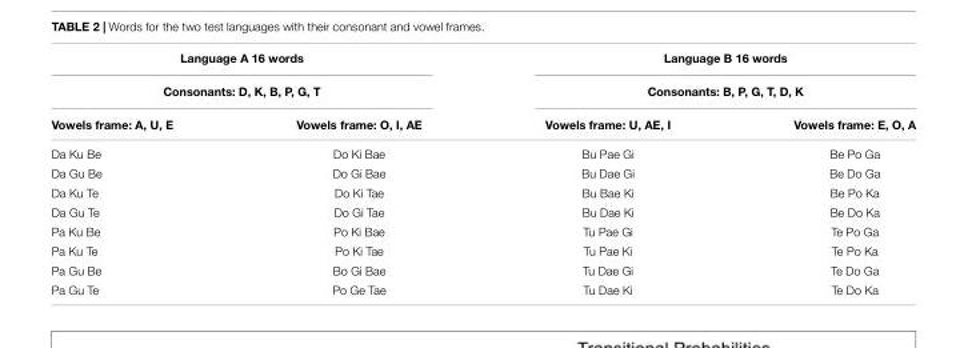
<table><thead><tr><td rowspan="2" colspan="2">Language A 16 words Consonants: D, K, B, P, G, T</td><td rowspan="2" colspan="2">Language B 16 words Consonants: B, P, G, T, D, K</td></tr><tr></tr><tr><td>Vowels frame: A, U, E</td><td>Vowels frame: O, I, AE</td><td>Vowels frame: U, AE, I</td><td>Vowels frame: E, O, A</td></tr></thead><tbody><tr><td>Da Ku Be</td><td>Do Ki Bae</td><td>Bu Pae Gi</td><td>Be Po Ga</td></tr><tr><td>Da Gu Be</td><td>Do Gi Bae</td><td>Bu Dae Gi</td><td>Be Do Ga</td></tr><tr><td>Da Ku Te</td><td>Do Ki Tae</td><td>Bu Bae Ki</td><td>Be Po Ka</td></tr><tr><td>Da Gu Te</td><td>Do Gi Tae</td><td>Bu Dae Ki</td><td>Be Do Ka</td></tr><tr><td>Pa Ku Be</td><td>Po Ki Bae</td><td>Tu Pae Gi</td><td>Te Po Ga</td></tr><tr><td>Pa Ku Te</td><td>Po Ki Tae</td><td>Tu Pae Ki</td><td>Te Po Ka</td></tr><tr><td>Pa Gu Be</td><td>Bo Gi Bae</td><td>Tu Dae Gi</td><td>Te Do Ga</td></tr><tr><td>Pa Gu Te</td><td>Po Ge Tae</td><td>Tu Dae Ki</td><td>Te Do Ka</td></tr></tbody></table>